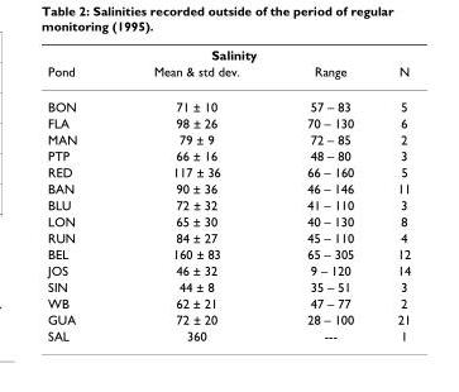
<table><thead><tr><td colspan="4">Salinity</td></tr><tr><td>Pond</td><td>Mean &amp; std dev.</td><td>Range</td><td>N</td></tr></thead><tbody><tr><td>BON</td><td>71 ± 10</td><td>57 – 83</td><td>5</td></tr><tr><td>FLA</td><td>98 ± 26</td><td>70 – 130</td><td>6</td></tr><tr><td>MAN</td><td>79 ± 9</td><td>72 – 85</td><td>2</td></tr><tr><td>PTP</td><td>66 ± 16</td><td>48 – 80</td><td>3</td></tr><tr><td>RED</td><td>117 ± 36</td><td>66 – 160</td><td>5</td></tr><tr><td>BAN</td><td>90 ± 36</td><td>46 – 146</td><td>11</td></tr><tr><td>BLU</td><td>72 ± 32</td><td>41 – 110</td><td>3</td></tr><tr><td>LON</td><td>65 ± 30</td><td>40 – 130</td><td>8</td></tr><tr><td>RUN</td><td>84 ± 27</td><td>45 – 110</td><td>4</td></tr><tr><td>BEL</td><td>160 ± 83</td><td>65 – 305</td><td>12</td></tr><tr><td>JOS</td><td>46 ± 32</td><td>9 – 120</td><td>14</td></tr><tr><td>SIN</td><td>44 ± 8</td><td>35 – 51</td><td>3</td></tr><tr><td>WB</td><td>62 ± 21</td><td>47 – 77</td><td>2</td></tr><tr><td>GUA</td><td>72 ± 20</td><td>28 – 100</td><td>21</td></tr><tr><td>SAL</td><td>360</td><td>---</td><td>1</td></tr></tbody></table>